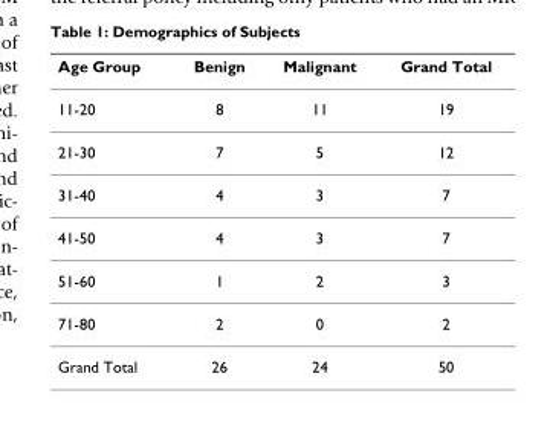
<table><thead><tr><td>Age Group</td><td>Benign</td><td>Malignant</td><td>Grand Total</td></tr></thead><tbody><tr><td>11-20</td><td>8</td><td>11</td><td>19</td></tr><tr><td>21-30</td><td>7</td><td>5</td><td>12</td></tr><tr><td>31-40</td><td>4</td><td>3</td><td>7</td></tr><tr><td>41-50</td><td>4</td><td>3</td><td>7</td></tr><tr><td>51-60</td><td>1</td><td>2</td><td>3</td></tr><tr><td>71-80</td><td>2</td><td>0</td><td>2</td></tr><tr><td>Grand Total</td><td>26</td><td>24</td><td>50</td></tr></tbody></table>